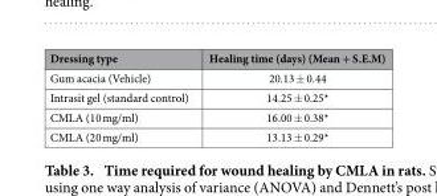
<table><thead><tr><td>Dressing type</td><td>Healing time (days) (Mean + S.E.M)</td></tr></thead><tbody><tr><td>Gum acacia (Vehicle)</td><td>20.13 ± 0.44</td></tr><tr><td>Intrasit gel (standard control)</td><td>14.25 ± 0.25*</td></tr><tr><td>CMLA (10 mg/ml)</td><td>16.00 ± 0.38*</td></tr><tr><td>CMLA (20 mg/ml)</td><td>13.13 ± 0.29*</td></tr></tbody></table>